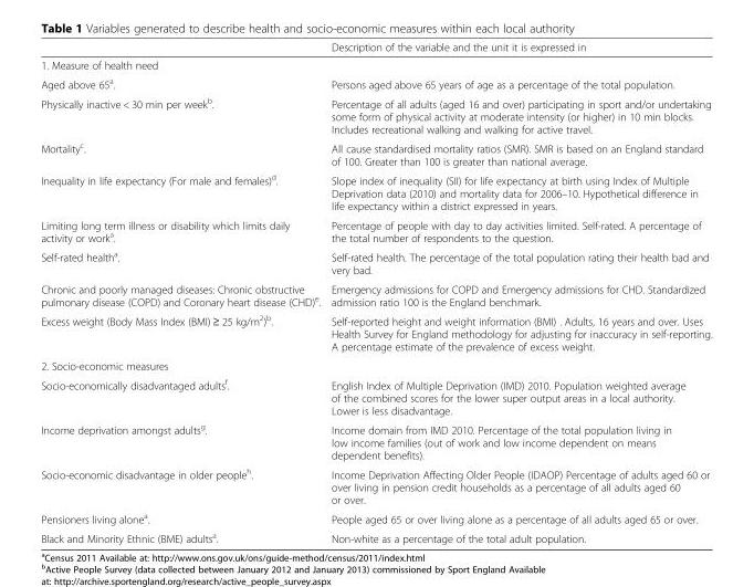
<table><thead><tr><td></td><td>Description of the variable and the unit it is expressed in</td></tr></thead><tbody><tr><td colspan="2">1. Measure of health need</td></tr><tr><td>Aged above 65<sup>a</sup>.</td><td>Persons aged above 65 years of age as a percentage of the total population.</td></tr><tr><td>Physically inactive &lt; 30 min per week<sup>b</sup>.</td><td>Percentage of all adults (aged 16 and over) participating in sport and/or undertaking some form of physical activity at moderate intensity (or higher) in 10 min blocks. Includes recreational walking and walking for active travel.</td></tr><tr><td>Mortality<sup>c</sup>.</td><td>All cause standardised mortality ratios (SMR). SMR is based on an England standard of 100. Greater than 100 is greater than national average.</td></tr><tr><td>Inequality in life expectancy (For male and females)<sup>d</sup>.</td><td>Slope index of inequality (SII) for life expectancy at birth using Index of Multiple Deprivation data (2010) and mortality data for 2006–10. Hypothetical difference in life expectancy within a district expressed in years.</td></tr><tr><td>Limiting long term illness or disability which limits daily activity or work<sup>a</sup>.</td><td>Percentage of people with day to day activities limited. Self-rated. A percentage of the total number of respondents to the question.</td></tr><tr><td>Self-rated health<sup>a</sup>.</td><td>Self-rated health. The percentage of the total population rating their health bad and very bad.</td></tr><tr><td>Chronic and poorly managed diseases: Chronic obstructive pulmonary disease (COPD) and Coronary heart disease (CHD)<sup>e</sup>.</td><td>Emergency admissions for COPD and Emergency admissions for CHD. Standardized admission ratio 100 is the England benchmark.</td></tr><tr><td>Excess weight (Body Mass Index (BMI) ≥ 25 kg/m<sup>2</sup>)<sup>b</sup>.</td><td>Self-reported height and weight information (BMI) . Adults, 16 years and over. Uses Health Survey for England methodology for adjusting for inaccuracy in self-reporting. A percentage estimate of the prevalence of excess weight.</td></tr><tr><td colspan="2">2. Socio-economic measures</td></tr><tr><td>Socio-economically disadvantaged adults<sup>f</sup>.</td><td>English Index of Multiple Deprivation (IMD) 2010. Population weighted average of the combined scores for the lower super output areas in a local authority. Lower is less disadvantage.</td></tr><tr><td>Income deprivation amongst adults<sup>g</sup>.</td><td>Income domain from IMD 2010. Percentage of the total population living in low income families (out of work and low income dependent on means dependent benefits).</td></tr><tr><td>Socio-economic disadvantage in older people<sup>h</sup>.</td><td>Income Deprivation Affecting Older People (IDAOP) Percentage of adults aged 60 or over living in pension credit households as a percentage of all adults aged 60 or over.</td></tr><tr><td>Pensioners living alone<sup>a</sup>.</td><td>People aged 65 or over living alone as a percentage of all adults aged 65 or over.</td></tr><tr><td>Black and Minority Ethnic (BME) adults<sup>a</sup>.</td><td>Non-white as a percentage of the total adult population.</td></tr></tbody></table>